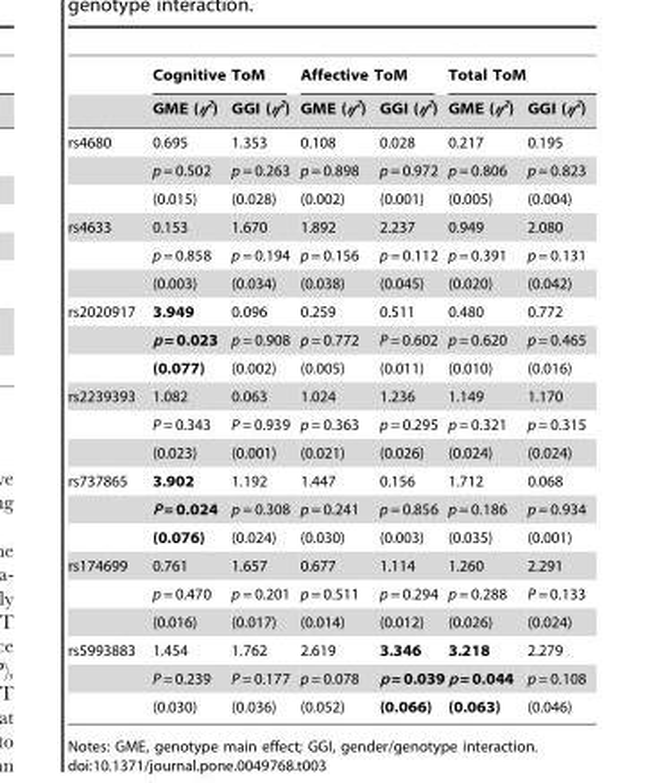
<table><thead><tr><td rowspan="2"></td><td colspan="2">Cognitive ToM</td><td colspan="2">Affective ToM</td><td colspan="2">Total ToM</td></tr><tr><td>GME (η<sup>2</sup>)</td><td>GGI (η<sup>2</sup>)</td><td>GME (η<sup>2</sup>)</td><td>GGI (η<sup>2</sup>)</td><td>GME (η<sup>2</sup>)</td><td>GGI (η<sup>2</sup>)</td></tr></thead><tbody><tr><td rowspan="3">rs4680</td><td>0.695</td><td>1.353</td><td>0.108</td><td>0.028</td><td>0.217</td><td>0.195</td></tr><tr><td>p = 0.502</td><td>p = 0.263</td><td>p = 0.898</td><td>p = 0.972</td><td>p = 0.806</td><td>p = 0.823</td></tr><tr><td>(0.015)</td><td>(0.028)</td><td>(0.002)</td><td>(0.001)</td><td>(0.005)</td><td>(0.004)</td></tr><tr><td rowspan="3">rs4633</td><td>0.153</td><td>1.670</td><td>1.892</td><td>2.237</td><td>0.949</td><td>2.080</td></tr><tr><td>p = 0.858</td><td>p = 0.194</td><td>p = 0.156</td><td>p = 0.112</td><td>p = 0.391</td><td>p = 0.131</td></tr><tr><td>(0.003)</td><td>(0.034)</td><td>(0.038)</td><td>(0.045)</td><td>(0.020)</td><td>(0.042)</td></tr><tr><td rowspan="3">rs2020917</td><td>3.949</td><td>0.096</td><td>0.259</td><td>0.511</td><td>0.480</td><td>0.772</td></tr><tr><td>p = 0.023</td><td>p = 0.908</td><td>p = 0.772</td><td>P = 0.602</td><td>p = 0.620</td><td>p = 0.465</td></tr><tr><td>(0.077)</td><td>(0.002)</td><td>(0.005)</td><td>(0.011)</td><td>(0.010)</td><td>(0.016)</td></tr><tr><td rowspan="3">rs2239393</td><td>1.082</td><td>0.063</td><td>1.024</td><td>1.236</td><td>1.149</td><td>1.170</td></tr><tr><td>P = 0.343</td><td>P = 0.939</td><td>p = 0.363</td><td>p = 0.295</td><td>p = 0.321</td><td>p = 0.315</td></tr><tr><td>(0.023)</td><td>(0.001)</td><td>(0.021)</td><td>(0.026)</td><td>(0.024)</td><td>(0.024)</td></tr><tr><td rowspan="3">rs737865</td><td>3.902</td><td>1.192</td><td>1.447</td><td>0.156</td><td>1.712</td><td>0.068</td></tr><tr><td>P = 0.024</td><td>p = 0.308</td><td>p = 0.241</td><td>p = 0.856</td><td>p = 0.186</td><td>p = 0.934</td></tr><tr><td>(0.076)</td><td>(0.024)</td><td>(0.030)</td><td>(0.003)</td><td>(0.035)</td><td>(0.001)</td></tr><tr><td rowspan="3">rs174699</td><td>0.761</td><td>1.657</td><td>0.677</td><td>1.114</td><td>1.260</td><td>2.291</td></tr><tr><td>p = 0.470</td><td>p = 0.201</td><td>p = 0.511</td><td>p = 0.294</td><td>p = 0.288</td><td>P = 0.133</td></tr><tr><td>(0.016)</td><td>(0.017)</td><td>(0.014)</td><td>(0.012)</td><td>(0.026)</td><td>(0.024)</td></tr><tr><td rowspan="3">rs5993883</td><td>1.454</td><td>1.762</td><td>2.619</td><td>3.346</td><td>3.218</td><td>2.279</td></tr><tr><td>P = 0.239</td><td>P = 0.177</td><td>p = 0.078</td><td>p = 0.039</td><td>p = 0.044</td><td>p = 0.108</td></tr><tr><td>(0.030)</td><td>(0.036)</td><td>(0.052)</td><td>(0.066)</td><td>(0.063)</td><td>(0.046)</td></tr></tbody></table>